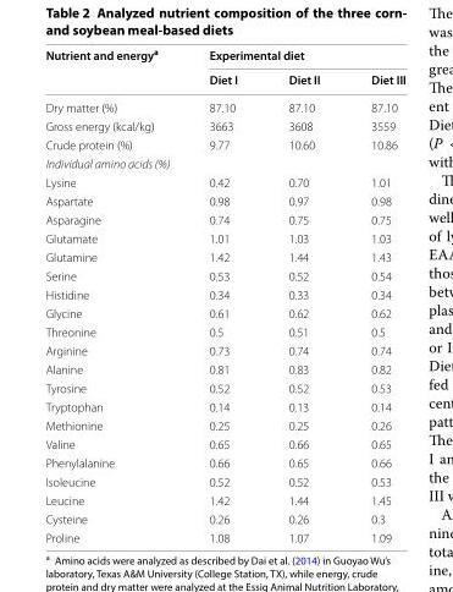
<table><thead><tr><td rowspan="2">Nutrient and energy<sup>a</sup></td><td colspan="3">Experimental diet</td></tr><tr><td>Diet I</td><td>Diet II</td><td>Diet III</td></tr></thead><tbody><tr><td>Dry matter (%)</td><td>87.10</td><td>87.10</td><td>87.10</td></tr><tr><td>Gross energy (kcal/kg)</td><td>3663</td><td>3608</td><td>3559</td></tr><tr><td>Crude protein (%)</td><td>9.77</td><td>10.60</td><td>10.86</td></tr><tr><td colspan="4">Individual amino acids (%)</td></tr><tr><td>Lysine</td><td>0.42</td><td>0.70</td><td>1.01</td></tr><tr><td>Aspartate</td><td>0.98</td><td>0.97</td><td>0.98</td></tr><tr><td>Asparagine</td><td>0.74</td><td>0.75</td><td>0.75</td></tr><tr><td>Glutamate</td><td>1.01</td><td>1.03</td><td>1.03</td></tr><tr><td>Glutamine</td><td>1.42</td><td>1.44</td><td>1.43</td></tr><tr><td>Serine</td><td>0.53</td><td>0.52</td><td>0.54</td></tr><tr><td>Histidine</td><td>0.34</td><td>0.33</td><td>0.34</td></tr><tr><td>Glycine</td><td>0.61</td><td>0.62</td><td>0.62</td></tr><tr><td>Threonine</td><td>0.5</td><td>0.51</td><td>0.5</td></tr><tr><td>Arginine</td><td>0.73</td><td>0.74</td><td>0.74</td></tr><tr><td>Alanine</td><td>0.81</td><td>0.83</td><td>0.82</td></tr><tr><td>Tyrosine</td><td>0.52</td><td>0.52</td><td>0.53</td></tr><tr><td>Tryptophan</td><td>0.14</td><td>0.13</td><td>0.14</td></tr><tr><td>Methionine</td><td>0.25</td><td>0.25</td><td>0.26</td></tr><tr><td>Valine</td><td>0.65</td><td>0.66</td><td>0.65</td></tr><tr><td>Phenylalanine</td><td>0.66</td><td>0.65</td><td>0.66</td></tr><tr><td>Isoleucine</td><td>0.52</td><td>0.52</td><td>0.53</td></tr><tr><td>Leucine</td><td>1.42</td><td>1.44</td><td>1.45</td></tr><tr><td>Cysteine</td><td>0.26</td><td>0.26</td><td>0.3</td></tr><tr><td>Proline</td><td>1.08</td><td>1.07</td><td>1.09</td></tr></tbody></table>